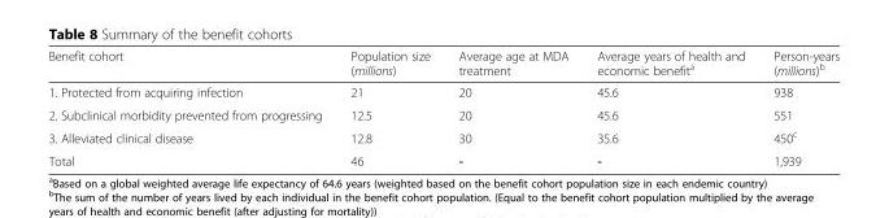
<table><thead><tr><td>Benefit cohort</td><td>Population size (millions)</td><td>Average age at MDA treatment</td><td>Average years of health and economic benefit<sup>a</sup></td><td>Person-years (millions)<sup>b</sup></td></tr></thead><tbody><tr><td>1. Protected from acquiring infection</td><td>21</td><td>20</td><td>45.6</td><td>938</td></tr><tr><td>2. Subclinical morbidity prevented from progressing</td><td>12.5</td><td>20</td><td>45.6</td><td>551</td></tr><tr><td>3. Alleviated clinical disease</td><td>12.8</td><td>30</td><td>35.6</td><td>450<sup>c</sup></td></tr><tr><td>Total</td><td>46</td><td>-</td><td>-</td><td>1,939</td></tr></tbody></table>